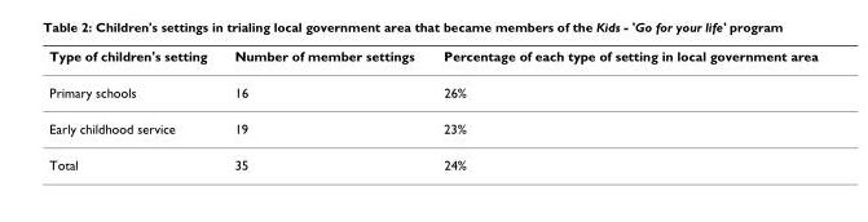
<table><thead><tr><td>Type of children&#x27;s setting</td><td>Number of member settings</td><td>Percentage of each type of setting in local government area</td></tr></thead><tbody><tr><td>Primary schools</td><td>16</td><td>26%</td></tr><tr><td>Early childhood service</td><td>19</td><td>23%</td></tr><tr><td>Total</td><td>35</td><td>24%</td></tr></tbody></table>